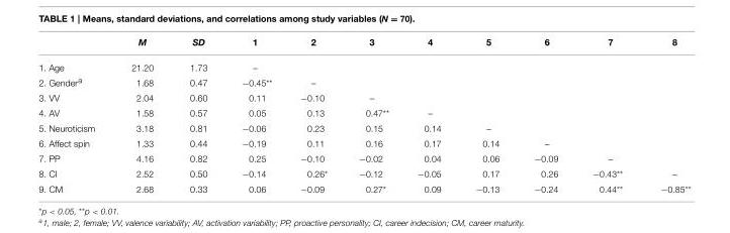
<table><thead><tr><td></td><td>M</td><td>SD</td><td>1</td><td>2</td><td>3</td><td>4</td><td>5</td><td>6</td><td>7</td><td>8</td></tr></thead><tbody><tr><td>1. Age</td><td>21.20</td><td>1.73</td><td>–</td><td></td><td></td><td></td><td></td><td></td><td></td><td></td></tr><tr><td>2. Gender<sup>a</sup></td><td>1.68</td><td>0.47</td><td>−0.45**</td><td>–</td><td></td><td></td><td></td><td></td><td></td><td></td></tr><tr><td>3. VV</td><td>2.04</td><td>0.60</td><td>0.11</td><td>−0.10</td><td>–</td><td></td><td></td><td></td><td></td><td></td></tr><tr><td>4. AV</td><td>1.58</td><td>0.57</td><td>0.05</td><td>0.13</td><td>0.47**</td><td>–</td><td></td><td></td><td></td><td></td></tr><tr><td>5. Neuroticism</td><td>3.18</td><td>0.81</td><td>−0.06</td><td>0.23</td><td>0.15</td><td>0.14</td><td>–</td><td></td><td></td><td></td></tr><tr><td>6. Affect spin</td><td>1.33</td><td>0.44</td><td>−0.19</td><td>0.11</td><td>0.16</td><td>0.17</td><td>0.14</td><td>–</td><td></td><td></td></tr><tr><td>7. PP</td><td>4.16</td><td>0.82</td><td>0.25</td><td>−0.10</td><td>−0.02</td><td>0.04</td><td>0.06</td><td>−0.09</td><td>–</td><td></td></tr><tr><td>8. CI</td><td>2.52</td><td>0.50</td><td>−0.14</td><td>0.26*</td><td>−0.12</td><td>−0.05</td><td>0.17</td><td>0.26</td><td>−0.43**</td><td>–</td></tr><tr><td>9. CM</td><td>2.68</td><td>0.33</td><td>0.06</td><td>−0.09</td><td>0.27*</td><td>0.09</td><td>−0.13</td><td>−0.24</td><td>0.44**</td><td>−0.85**</td></tr></tbody></table>